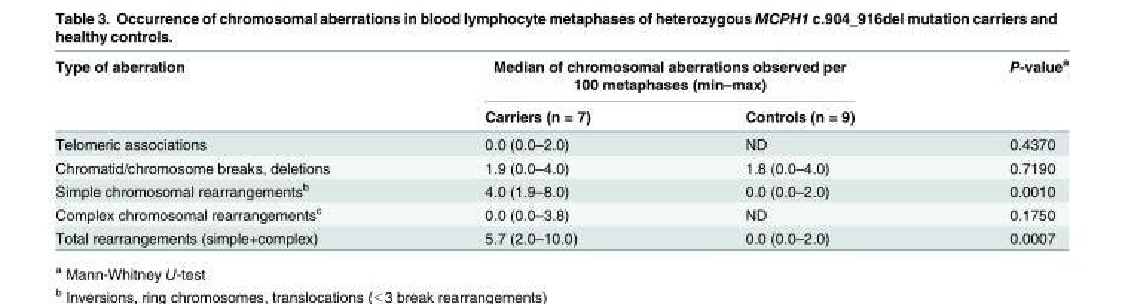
<table><thead><tr><td rowspan="2">Type of aberration</td><td colspan="2">Median of chromosomal aberrations observed per 100 metaphases (min–max)</td><td rowspan="2">P-value<sup>a</sup></td></tr><tr><td>Carriers (n = 7)</td><td>Controls (n = 9)</td></tr></thead><tbody><tr><td>Telomeric associations</td><td>0.0 (0.0–2.0)</td><td>ND</td><td>0.4370</td></tr><tr><td>Chromatid/chromosome breaks, deletions</td><td>1.9 (0.0–4.0)</td><td>1.8 (0.0–4.0)</td><td>0.7190</td></tr><tr><td>Simple chromosomal rearrangements<sup>b</sup></td><td>4.0 (1.9–8.0)</td><td>0.0 (0.0–2.0)</td><td>0.0010</td></tr><tr><td>Complex chromosomal rearrangements<sup>c</sup></td><td>0.0 (0.0–3.8)</td><td>ND</td><td>0.1750</td></tr><tr><td>Total rearrangements (simple+complex)</td><td>5.7 (2.0–10.0)</td><td>0.0 (0.0–2.0)</td><td>0.0007</td></tr></tbody></table>